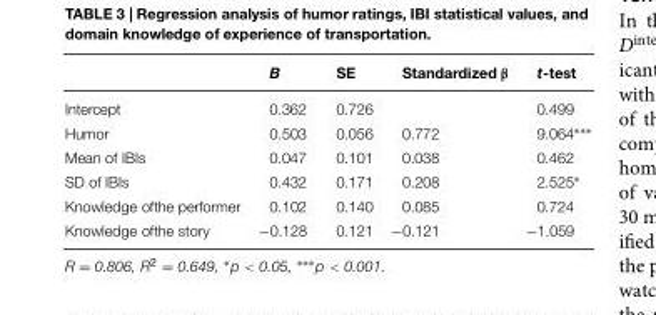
<table><thead><tr><td></td><td>B</td><td>SE</td><td>Standardized β</td><td>t-test</td></tr></thead><tbody><tr><td>Intercept</td><td>0.362</td><td>0.726</td><td></td><td>0.499</td></tr><tr><td>Humor</td><td>0.503</td><td>0.056</td><td>0.772</td><td>9.064∗∗∗</td></tr><tr><td>Mean of IBIs</td><td>0.047</td><td>0.101</td><td>0.038</td><td>0.462</td></tr><tr><td>SD of IBIs</td><td>0.432</td><td>0.171</td><td>0.208</td><td>2.525∗</td></tr><tr><td>Knowledge ofthe performer</td><td>0.102</td><td>0.140</td><td>0.085</td><td>0.724</td></tr><tr><td>Knowledge ofthe story</td><td>−0.128</td><td>0.121</td><td>−0.121</td><td>−1.059</td></tr></tbody></table>